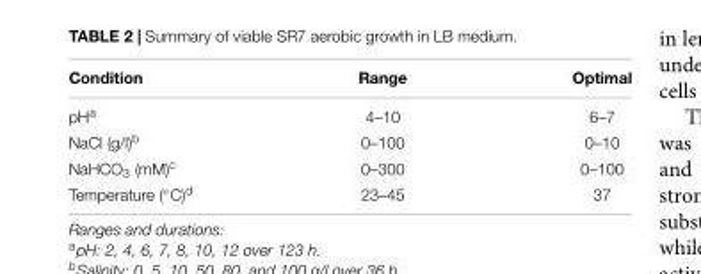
<table><thead><tr><td>Condition</td><td>Range</td><td>Optimal</td></tr></thead><tbody><tr><td>pH<sup>a</sup></td><td>4–10</td><td>6–7</td></tr><tr><td>NaCl (g/l)<sup>b</sup></td><td>0–100</td><td>0–10</td></tr><tr><td>NaHCO<sub>3</sub> (mM)<sup>c</sup></td><td>0–300</td><td>0–100</td></tr><tr><td>Temperature (◦C)d</td><td>23–45</td><td>37</td></tr></tbody></table>